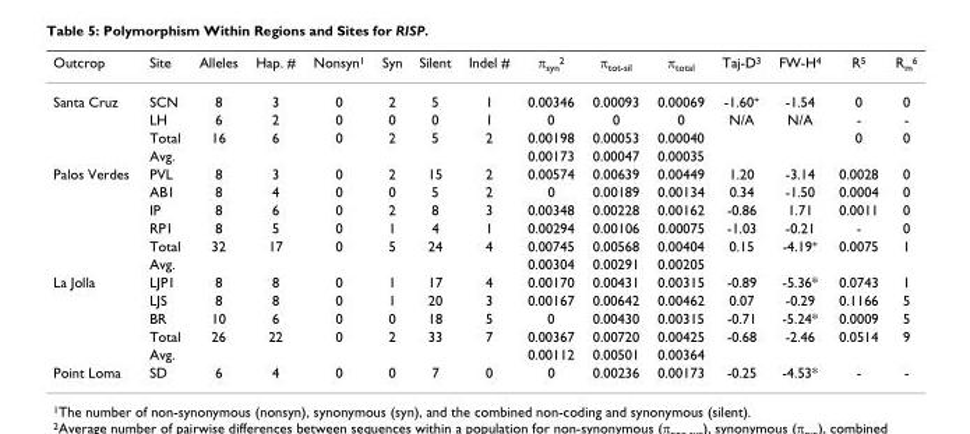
<table><thead><tr><td>Outcrop</td><td>Site</td><td>Alleles</td><td>Hap. #</td><td>Nonsyn<sup>1</sup></td><td>Syn</td><td>Silent</td><td>Indel #</td><td>π<sub>syn</sub><sup>2</sup></td><td>π<sub>tot-sil</sub></td><td>π<sub>total</sub></td><td>Taj-D<sup>3</sup></td><td>FW-H<sup>4</sup></td><td>R<sup>5</sup></td><td>R<sub>m</sub><sup>6</sup></td></tr></thead><tbody><tr><td rowspan="4">Santa Cruz</td><td>SCN</td><td>8</td><td>3</td><td>0</td><td>2</td><td>5</td><td>1</td><td>0.00346</td><td>0.00093</td><td>0.00069</td><td>-1.60<sup>+</sup></td><td>-1.54</td><td>0</td><td>0</td></tr><tr><td>LH</td><td>6</td><td>2</td><td>0</td><td>0</td><td>0</td><td>1</td><td>0</td><td>0</td><td>0</td><td>N/A</td><td>N/A</td><td>-</td><td>-</td></tr><tr><td>Total</td><td>16</td><td>6</td><td>0</td><td>2</td><td>5</td><td>2</td><td>0.00198</td><td>0.00053</td><td>0.00040</td><td></td><td></td><td>0</td><td>0</td></tr><tr><td>Avg.</td><td></td><td></td><td></td><td></td><td></td><td></td><td>0.00173</td><td>0.00047</td><td>0.00035</td><td></td><td></td><td></td><td></td></tr><tr><td rowspan="6">Palos Verdes</td><td>PVL</td><td>8</td><td>3</td><td>0</td><td>2</td><td>15</td><td>2</td><td>0.00574</td><td>0.00639</td><td>0.00449</td><td>1.20</td><td>-3.14</td><td>0.0028</td><td>0</td></tr><tr><td>AB1</td><td>8</td><td>4</td><td>0</td><td>0</td><td>5</td><td>2</td><td>0</td><td>0.00189</td><td>0.00134</td><td>0.34</td><td>-1.50</td><td>0.0004</td><td>0</td></tr><tr><td>IP</td><td>8</td><td>6</td><td>0</td><td>2</td><td>8</td><td>3</td><td>0.00348</td><td>0.00228</td><td>0.00162</td><td>-0.86</td><td>1.71</td><td>0.0011</td><td>0</td></tr><tr><td>RP1</td><td>8</td><td>5</td><td>0</td><td>1</td><td>4</td><td>1</td><td>0.00294</td><td>0.00106</td><td>0.00075</td><td>-1.03</td><td>-0.21</td><td>-</td><td>0</td></tr><tr><td>Total</td><td>32</td><td>17</td><td>0</td><td>5</td><td>24</td><td>4</td><td>0.00745</td><td>0.00568</td><td>0.00404</td><td>0.15</td><td>-4.19<sup>+</sup></td><td>0.0075</td><td>1</td></tr><tr><td>Avg.</td><td></td><td></td><td></td><td></td><td></td><td></td><td>0.00304</td><td>0.00291</td><td>0.00205</td><td></td><td></td><td></td><td></td></tr><tr><td rowspan="5">La Jolla</td><td>LJP1</td><td>8</td><td>8</td><td>0</td><td>1</td><td>17</td><td>4</td><td>0.00170</td><td>0.00431</td><td>0.00315</td><td>-0.89</td><td>-5.36*</td><td>0.0743</td><td>1</td></tr><tr><td>LJS</td><td>8</td><td>8</td><td>0</td><td>1</td><td>20</td><td>3</td><td>0.00167</td><td>0.00642</td><td>0.00462</td><td>0.07</td><td>-0.29</td><td>0.1166</td><td>5</td></tr><tr><td>BR</td><td>10</td><td>6</td><td>0</td><td>0</td><td>18</td><td>5</td><td>0</td><td>0.00430</td><td>0.00315</td><td>-0.71</td><td>-5.24*</td><td>0.0009</td><td>5</td></tr><tr><td>Total</td><td>26</td><td>22</td><td>0</td><td>2</td><td>33</td><td>7</td><td>0.00367</td><td>0.00720</td><td>0.00425</td><td>-0.68</td><td>-2.46</td><td>0.0514</td><td>9</td></tr><tr><td>Avg.</td><td></td><td></td><td></td><td></td><td></td><td></td><td>0.00112</td><td>0.00501</td><td>0.00364</td><td></td><td></td><td></td><td></td></tr><tr><td>Point Loma</td><td>SD</td><td>6</td><td>4</td><td>0</td><td>0</td><td>7</td><td>0</td><td>0</td><td>0.00236</td><td>0.00173</td><td>-0.25</td><td>-4.53*</td><td>-</td><td>-</td></tr></tbody></table>